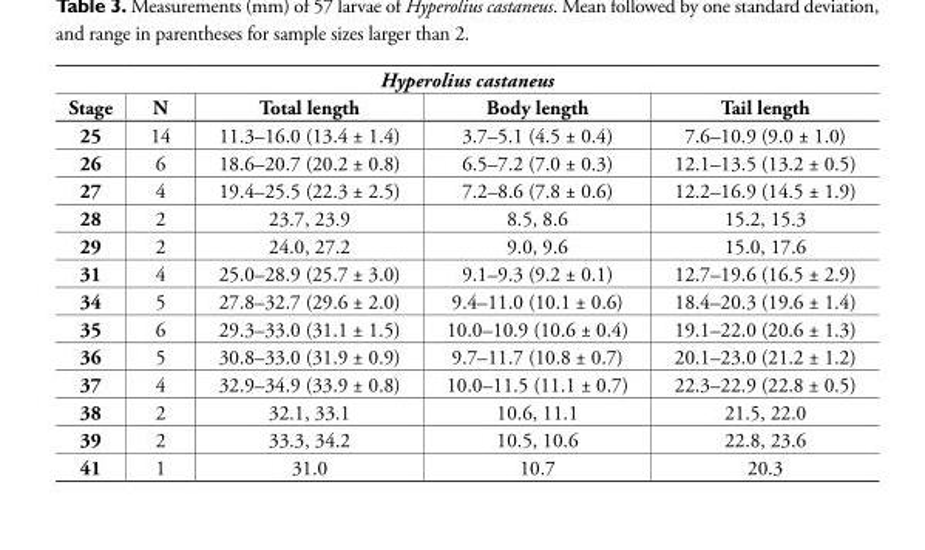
<table><thead><tr><td colspan="5">Hyperolius castaneus</td></tr><tr><td>Stage</td><td>N</td><td>Total length</td><td>Body length</td><td>Tail length</td></tr></thead><tbody><tr><td>25</td><td>14</td><td>11.3–16.0 (13.4 ± 1.4)</td><td>3.7–5.1 (4.5 ± 0.4)</td><td>7.6–10.9 (9.0 ± 1.0)</td></tr><tr><td>26</td><td>6</td><td>18.6–20.7 (20.2 ± 0.8)</td><td>6.5–7.2 (7.0 ± 0.3)</td><td>12.1–13.5 (13.2 ± 0.5)</td></tr><tr><td>27</td><td>4</td><td>19.4–25.5 (22.3 ± 2.5)</td><td>7.2–8.6 (7.8 ± 0.6)</td><td>12.2–16.9 (14.5 ± 1.9)</td></tr><tr><td>28</td><td>2</td><td>23.7, 23.9</td><td>8.5, 8.6</td><td>15.2, 15.3</td></tr><tr><td>29</td><td>2</td><td>24.0, 27.2</td><td>9.0, 9.6</td><td>15.0, 17.6</td></tr><tr><td>31</td><td>4</td><td>25.0–28.9 (25.7 ± 3.0)</td><td>9.1–9.3 (9.2 ± 0.1)</td><td>12.7–19.6 (16.5 ± 2.9)</td></tr><tr><td>34</td><td>5</td><td>27.8–32.7 (29.6 ± 2.0)</td><td>9.4–11.0 (10.1 ± 0.6)</td><td>18.4–20.3 (19.6 ± 1.4)</td></tr><tr><td>35</td><td>6</td><td>29.3–33.0 (31.1 ± 1.5)</td><td>10.0–10.9 (10.6 ± 0.4)</td><td>19.1–22.0 (20.6 ± 1.3)</td></tr><tr><td>36</td><td>5</td><td>30.8–33.0 (31.9 ± 0.9)</td><td>9.7–11.7 (10.8 ± 0.7)</td><td>20.1–23.0 (21.2 ± 1.2)</td></tr><tr><td>37</td><td>4</td><td>32.9–34.9 (33.9 ± 0.8)</td><td>10.0–11.5 (11.1 ± 0.7)</td><td>22.3–22.9 (22.8 ± 0.5)</td></tr><tr><td>38</td><td>2</td><td>32.1, 33.1</td><td>10.6, 11.1</td><td>21.5, 22.0</td></tr><tr><td>39</td><td>2</td><td>33.3, 34.2</td><td>10.5, 10.6</td><td>22.8, 23.6</td></tr><tr><td>41</td><td>1</td><td>31.0</td><td>10.7</td><td>20.3</td></tr></tbody></table>